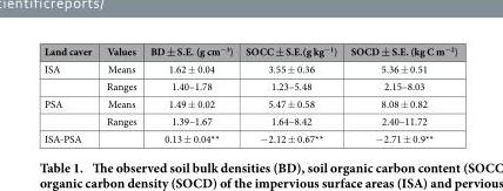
<table><thead><tr><td>Land caver</td><td>Values</td><td>BD ± S.E. (g cm<sup>−3</sup>)</td><td>SOCC ± S.E.(g kg<sup>−1</sup>)</td><td>SOCD ± S.E. (kg C m<sup>−2</sup>)</td></tr></thead><tbody><tr><td rowspan="2">ISA</td><td>Means</td><td>1.62 ± 0.04</td><td>3.55 ± 0.36</td><td>5.36 ± 0.51</td></tr><tr><td>Ranges</td><td>1.40–1.78</td><td>1.23–5.48</td><td>2.15–8.03</td></tr><tr><td rowspan="2">PSA</td><td>Means</td><td>1.49 ± 0.02</td><td>5.47 ± 0.58</td><td>8.08 ± 0.82</td></tr><tr><td>Ranges</td><td>1.39–1.67</td><td>1.64–8.42</td><td>2.40–11.72</td></tr><tr><td>ISA-PSA</td><td></td><td>0.13 ± 0.04**</td><td>− 2.12 ± 0.67**</td><td>− 2.71 ± 0.9**</td></tr></tbody></table>